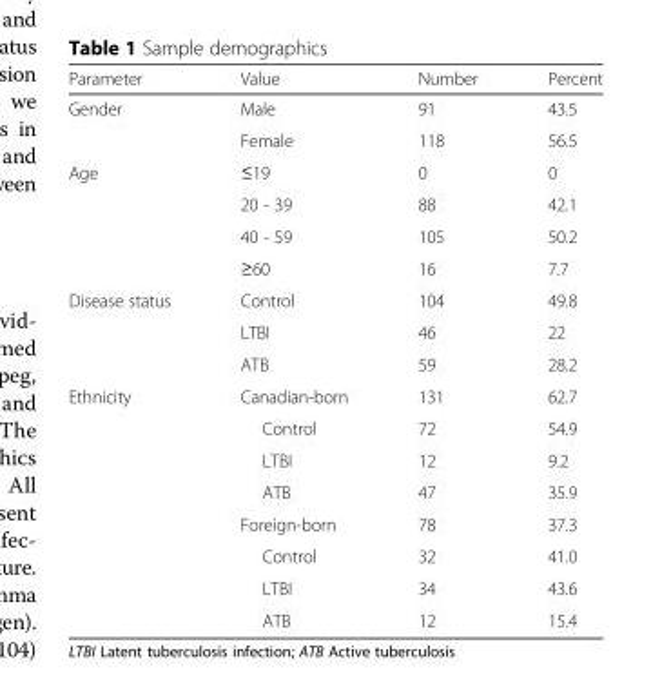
<table><thead><tr><td>Parameter</td><td>Value</td><td>Number</td><td>Percent</td></tr></thead><tbody><tr><td rowspan="2">Gender</td><td>Male</td><td>91</td><td>43.5</td></tr><tr><td>Female</td><td>118</td><td>56.5</td></tr><tr><td rowspan="4">Age</td><td>≤19</td><td>0</td><td>0</td></tr><tr><td>20 - 39</td><td>88</td><td>42.1</td></tr><tr><td>40 - 59</td><td>105</td><td>50.2</td></tr><tr><td>≥60</td><td>16</td><td>7.7</td></tr><tr><td rowspan="3">Disease status</td><td>Control</td><td>104</td><td>49.8</td></tr><tr><td>LTBI</td><td>46</td><td>22</td></tr><tr><td>ATB</td><td>59</td><td>28.2</td></tr><tr><td rowspan="8">Ethnicity</td><td>Canadian-born</td><td>131</td><td>62.7</td></tr><tr><td>Control</td><td>72</td><td>54.9</td></tr><tr><td>LTBI</td><td>12</td><td>9.2</td></tr><tr><td>ATB</td><td>47</td><td>35.9</td></tr><tr><td>Foreign-born</td><td>78</td><td>37.3</td></tr><tr><td>Control</td><td>32</td><td>41.0</td></tr><tr><td>LTBI</td><td>34</td><td>43.6</td></tr><tr><td>ATB</td><td>12</td><td>15.4</td></tr></tbody></table>